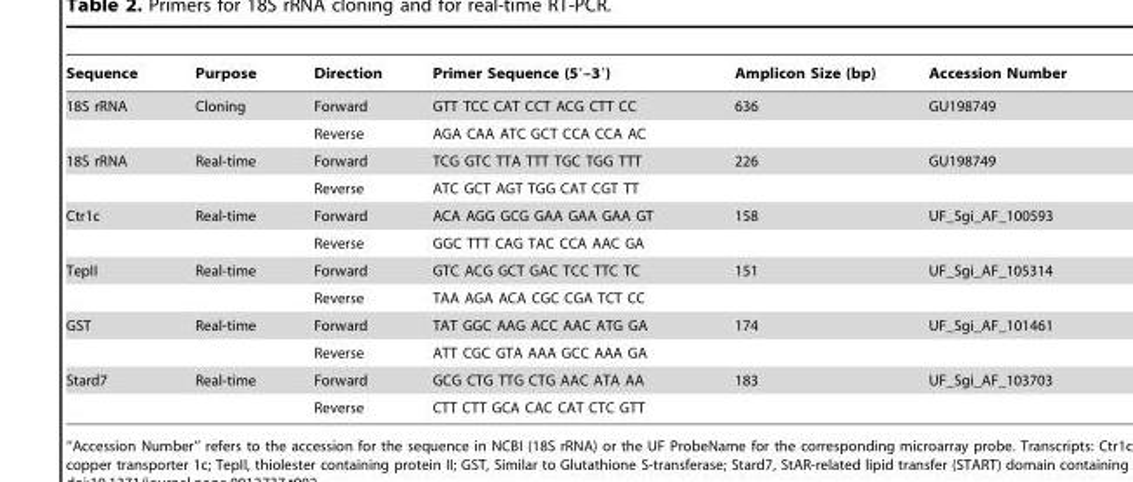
<table><thead><tr><td>Sequence</td><td>Purpose</td><td>Direction</td><td>Primer Sequence (5′–3′)</td><td>Amplicon Size (bp)</td><td>Accession Number</td></tr></thead><tbody><tr><td rowspan="2">18S rRNA</td><td>Cloning</td><td>Forward</td><td>GTT TCC CAT CCT ACG CTT CC</td><td>636</td><td>GU198749</td></tr><tr><td></td><td>Reverse</td><td>AGA CAA ATC GCT CCA CCA AC</td><td></td><td></td></tr><tr><td rowspan="2">18S rRNA</td><td>Real-time</td><td>Forward</td><td>TCG GTC TTA TTT TGC TGG TTT</td><td>226</td><td>GU198749</td></tr><tr><td></td><td>Reverse</td><td>ATC GCT AGT TGG CAT CGT TT</td><td></td><td></td></tr><tr><td rowspan="2">Ctr1c</td><td>Real-time</td><td>Forward</td><td>ACA AGG GCG GAA GAA GAA GT</td><td>158</td><td>UF_Sgi_AF_100593</td></tr><tr><td></td><td>Reverse</td><td>GGC TTT CAG TAC CCA AAC GA</td><td></td><td></td></tr><tr><td rowspan="2">TepII</td><td>Real-time</td><td>Forward</td><td>GTC ACG GCT GAC TCC TTC TC</td><td>151</td><td>UF_Sgi_AF_105314</td></tr><tr><td></td><td>Reverse</td><td>TAA AGA ACA CGC CGA TCT CC</td><td></td><td></td></tr><tr><td rowspan="2">GST</td><td>Real-time</td><td>Forward</td><td>TAT GGC AAG ACC AAC ATG GA</td><td>174</td><td>UF_Sgi_AF_101461</td></tr><tr><td></td><td>Reverse</td><td>ATT CGC GTA AAA GCC AAA GA</td><td></td><td></td></tr><tr><td rowspan="2">Stard7</td><td>Real-time</td><td>Forward</td><td>GCG CTG TTG CTG AAC ATA AA</td><td>183</td><td>UF_Sgi_AF_103703</td></tr><tr><td></td><td>Reverse</td><td>CTT CTT GCA CAC CAT CTC GTT</td><td></td><td></td></tr></tbody></table>